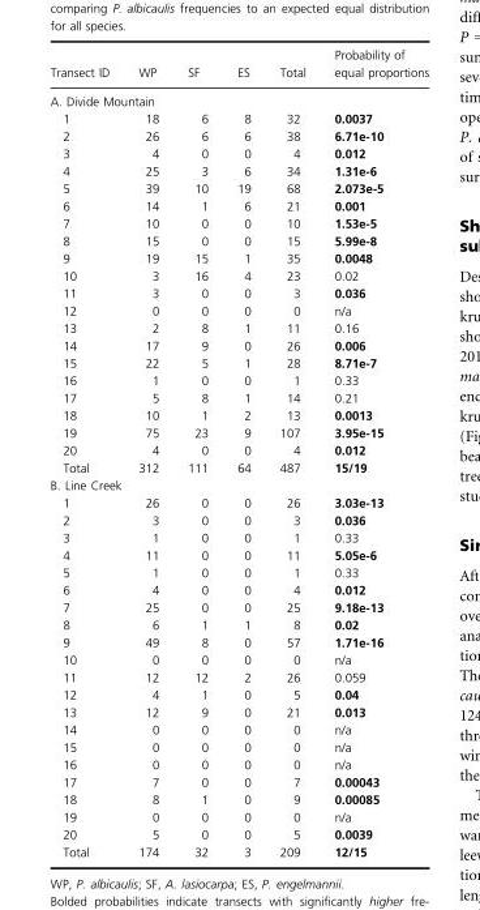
<table><thead><tr><td>Transect ID</td><td>WP</td><td>SF</td><td>ES</td><td>Total</td><td>Probability of equal proportions</td></tr></thead><tbody><tr><td colspan="6">A. Divide Mountain</td></tr><tr><td>1</td><td>18</td><td>6</td><td>8</td><td>32</td><td>0.0037</td></tr><tr><td>2</td><td>26</td><td>6</td><td>6</td><td>38</td><td>6.71e-10</td></tr><tr><td>3</td><td>4</td><td>0</td><td>0</td><td>4</td><td>0.012</td></tr><tr><td>4</td><td>25</td><td>3</td><td>6</td><td>34</td><td>1.31e-6</td></tr><tr><td>5</td><td>39</td><td>10</td><td>19</td><td>68</td><td>2.073e-5</td></tr><tr><td>6</td><td>14</td><td>1</td><td>6</td><td>21</td><td>0.001</td></tr><tr><td>7</td><td>10</td><td>0</td><td>0</td><td>10</td><td>1.53e-5</td></tr><tr><td>8</td><td>15</td><td>0</td><td>0</td><td>15</td><td>5.99e-8</td></tr><tr><td>9</td><td>19</td><td>15</td><td>1</td><td>35</td><td>0.0048</td></tr><tr><td>10</td><td>3</td><td>16</td><td>4</td><td>23</td><td>0.02</td></tr><tr><td>11</td><td>3</td><td>0</td><td>0</td><td>3</td><td>0.036</td></tr><tr><td>12</td><td>0</td><td>0</td><td>0</td><td>0</td><td>n/a</td></tr><tr><td>13</td><td>2</td><td>8</td><td>1</td><td>11</td><td>0.16</td></tr><tr><td>14</td><td>17</td><td>9</td><td>0</td><td>26</td><td>0.006</td></tr><tr><td>15</td><td>22</td><td>5</td><td>1</td><td>28</td><td>8.71e-7</td></tr><tr><td>16</td><td>1</td><td>0</td><td>0</td><td>1</td><td>0.33</td></tr><tr><td>17</td><td>5</td><td>8</td><td>1</td><td>14</td><td>0.21</td></tr><tr><td>18</td><td>10</td><td>1</td><td>2</td><td>13</td><td>0.0013</td></tr><tr><td>19</td><td>75</td><td>23</td><td>9</td><td>107</td><td>3.95e-15</td></tr><tr><td>20</td><td>4</td><td>0</td><td>0</td><td>4</td><td>0.012</td></tr><tr><td>Total</td><td>312</td><td>111</td><td>64</td><td>487</td><td>15/19</td></tr><tr><td colspan="6">B. Line Creek</td></tr><tr><td>1</td><td>26</td><td>0</td><td>0</td><td>26</td><td>3.03e-13</td></tr><tr><td>2</td><td>3</td><td>0</td><td>0</td><td>3</td><td>0.036</td></tr><tr><td>3</td><td>1</td><td>0</td><td>0</td><td>1</td><td>0.33</td></tr><tr><td>4</td><td>11</td><td>0</td><td>0</td><td>11</td><td>5.05e-6</td></tr><tr><td>5</td><td>1</td><td>0</td><td>0</td><td>1</td><td>0.33</td></tr><tr><td>6</td><td>4</td><td>0</td><td>0</td><td>4</td><td>0.012</td></tr><tr><td>7</td><td>25</td><td>0</td><td>0</td><td>25</td><td>9.18e-13</td></tr><tr><td>8</td><td>6</td><td>1</td><td>1</td><td>8</td><td>0.02</td></tr><tr><td>9</td><td>49</td><td>8</td><td>0</td><td>57</td><td>1.71e-16</td></tr><tr><td>10</td><td>0</td><td>0</td><td>0</td><td>0</td><td>n/a</td></tr><tr><td>11</td><td>12</td><td>12</td><td>2</td><td>26</td><td>0.059</td></tr><tr><td>12</td><td>4</td><td>1</td><td>0</td><td>5</td><td>0.04</td></tr><tr><td>13</td><td>12</td><td>9</td><td>0</td><td>21</td><td>0.013</td></tr><tr><td>14</td><td>0</td><td>0</td><td>0</td><td>0</td><td>n/a</td></tr><tr><td>15</td><td>0</td><td>0</td><td>0</td><td>0</td><td>n/a</td></tr><tr><td>16</td><td>0</td><td>0</td><td>0</td><td>0</td><td>n/a</td></tr><tr><td>17</td><td>7</td><td>0</td><td>0</td><td>7</td><td>0.00043</td></tr><tr><td>18</td><td>8</td><td>1</td><td>0</td><td>9</td><td>0.00085</td></tr><tr><td>19</td><td>0</td><td>0</td><td>0</td><td>0</td><td>n/a</td></tr><tr><td>20</td><td>5</td><td>0</td><td>0</td><td>5</td><td>0.0039</td></tr><tr><td>Total</td><td>174</td><td>32</td><td>3</td><td>209</td><td>12/15</td></tr></tbody></table>